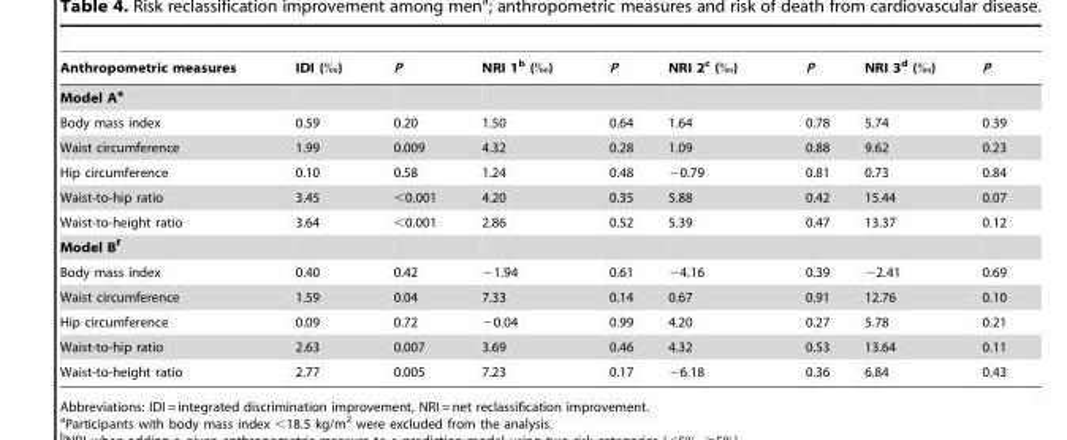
<table><thead><tr><td>Anthropometric measures</td><td>IDI (‰)</td><td>P</td><td>NRI 1<sup>b</sup> (‰)</td><td>P</td><td>NRI 2<sup>c</sup> (‰)</td><td>P</td><td>NRI 3<sup>d</sup> (‰)</td><td>P</td></tr></thead><tbody><tr><td colspan="9">Model Ae</td></tr><tr><td>Body mass index</td><td>0.59</td><td>0.20</td><td>1.50</td><td>0.64</td><td>1.64</td><td>0.78</td><td>5.74</td><td>0.39</td></tr><tr><td>Waist circumference</td><td>1.99</td><td>0.009</td><td>4.32</td><td>0.28</td><td>1.09</td><td>0.88</td><td>9.62</td><td>0.23</td></tr><tr><td>Hip circumference</td><td>0.10</td><td>0.58</td><td>1.24</td><td>0.48</td><td>−0.79</td><td>0.81</td><td>0.73</td><td>0.84</td></tr><tr><td>Waist-to-hip ratio</td><td>3.45</td><td>&lt;0.001</td><td>4.20</td><td>0.35</td><td>5.88</td><td>0.42</td><td>15.44</td><td>0.07</td></tr><tr><td>Waist-to-height ratio</td><td>3.64</td><td>&lt;0.001</td><td>2.86</td><td>0.52</td><td>5.39</td><td>0.47</td><td>13.37</td><td>0.12</td></tr><tr><td colspan="9">Model Bf</td></tr><tr><td>Body mass index</td><td>0.40</td><td>0.42</td><td>−1.94</td><td>0.61</td><td>−4.16</td><td>0.39</td><td>−2.41</td><td>0.69</td></tr><tr><td>Waist circumference</td><td>1.59</td><td>0.04</td><td>7.33</td><td>0.14</td><td>0.67</td><td>0.91</td><td>12.76</td><td>0.10</td></tr><tr><td>Hip circumference</td><td>0.09</td><td>0.72</td><td>−0.04</td><td>0.99</td><td>4.20</td><td>0.27</td><td>5.78</td><td>0.21</td></tr><tr><td>Waist-to-hip ratio</td><td>2.63</td><td>0.007</td><td>3.69</td><td>0.46</td><td>4.32</td><td>0.53</td><td>13.64</td><td>0.11</td></tr><tr><td>Waist-to-height ratio</td><td>2.77</td><td>0.005</td><td>7.23</td><td>0.17</td><td>−6.18</td><td>0.36</td><td>6.84</td><td>0.43</td></tr></tbody></table>